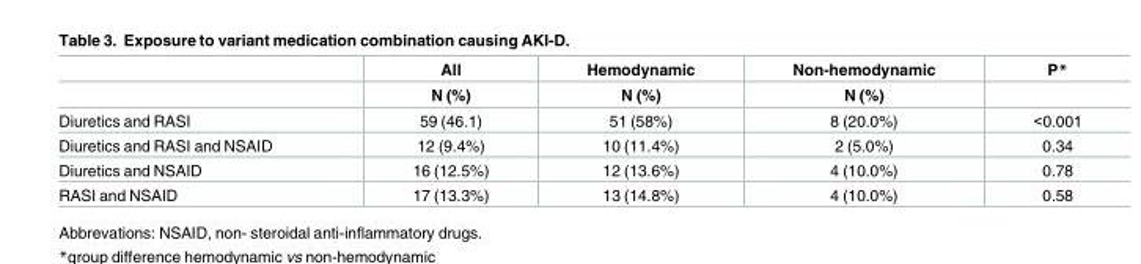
<table><thead><tr><td rowspan="2"></td><td rowspan="2">All N (%)</td><td rowspan="2">Hemodynamic N (%)</td><td rowspan="2">Non-hemodynamic N (%)</td><td rowspan="2">P*</td></tr><tr></tr></thead><tbody><tr><td>Diuretics and RASI</td><td>59 (46.1)</td><td>51 (58%)</td><td>8 (20.0%)</td><td>&lt;0.001</td></tr><tr><td>Diuretics and RASI and NSAID</td><td>12 (9.4%)</td><td>10 (11.4%)</td><td>2 (5.0%)</td><td>0.34</td></tr><tr><td>Diuretics and NSAID</td><td>16 (12.5%)</td><td>12 (13.6%)</td><td>4 (10.0%)</td><td>0.78</td></tr><tr><td>RASI and NSAID</td><td>17 (13.3%)</td><td>13 (14.8%)</td><td>4 (10.0%)</td><td>0.58</td></tr></tbody></table>